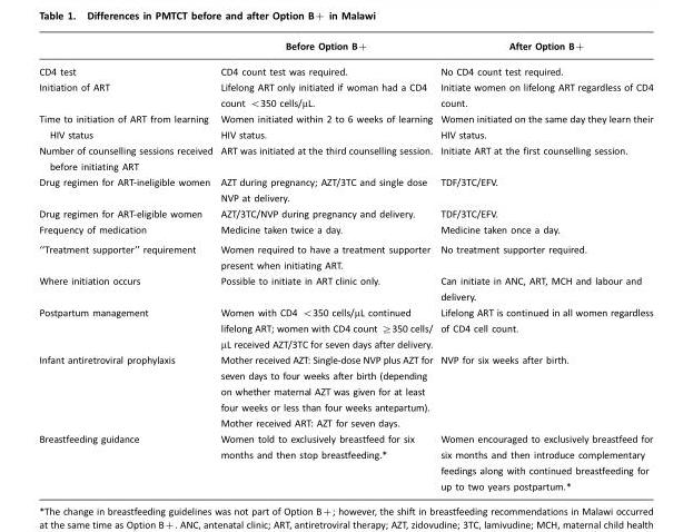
<table><thead><tr><td></td><td>Before Option B+</td><td>After Option B+</td></tr></thead><tbody><tr><td>CD4 test</td><td>CD4 count test was required.</td><td>No CD4 count test required.</td></tr><tr><td>Initiation of ART</td><td>Lifelong ART only initiated if woman had a CD4 count &lt;350 cells/µL.</td><td>Initiate women on lifelong ART regardless of CD4 count.</td></tr><tr><td>Time to initiation of ART from learning HIV status</td><td>Women initiated within 2 to 6 weeks of learning HIV status.</td><td>Women initiated on the same day they learn their HIV status.</td></tr><tr><td>Number of counselling sessions received before initiating ART</td><td>ART was initiated at the third counselling session.</td><td>Initiate ART at the first counselling session.</td></tr><tr><td>Drug regimen for ART-ineligible women</td><td>AZT during pregnancy; AZT/3TC and single dose NVP at delivery.</td><td>TDF/3TC/EFV.</td></tr><tr><td>Drug regimen for ART-eligible women</td><td>AZT/3TC/NVP during pregnancy and delivery.</td><td>TDF/3TC/EFV.</td></tr><tr><td>Frequency of medication</td><td>Medicine taken twice a day.</td><td>Medicine taken once a day.</td></tr><tr><td>‘‘Treatment supporter’’ requirement</td><td>Women required to have a treatment supporter present when initiating ART.</td><td>No treatment supporter required.</td></tr><tr><td>Where initiation occurs</td><td>Possible to initiate in ART clinic only.</td><td>Can initiate in ANC, ART, MCH and labour and delivery.</td></tr><tr><td>Postpartum management</td><td>Women with CD4 &lt;350 cells/µL continued lifelong ART; women with CD4 count ≥350 cells/ µL received AZT/3TC for seven days after delivery.</td><td>Lifelong ART is continued in all women regardless of CD4 cell count.</td></tr><tr><td>Infant antiretroviral prophylaxis</td><td>Mother received AZT: Single-dose NVP plus AZT for seven days to four weeks after birth (depending on whether maternal AZT was given for at least four weeks or less than four weeks antepartum). Mother received ART: AZT for seven days.</td><td>NVP for six weeks after birth.</td></tr><tr><td>Breastfeeding guidance</td><td>Women told to exclusively breastfeed for six months and then stop breastfeeding.*</td><td>Women encouraged to exclusively breastfeed for six months and then introduce complementary feedings along with continued breastfeeding for up to two years postpartum.*</td></tr></tbody></table>